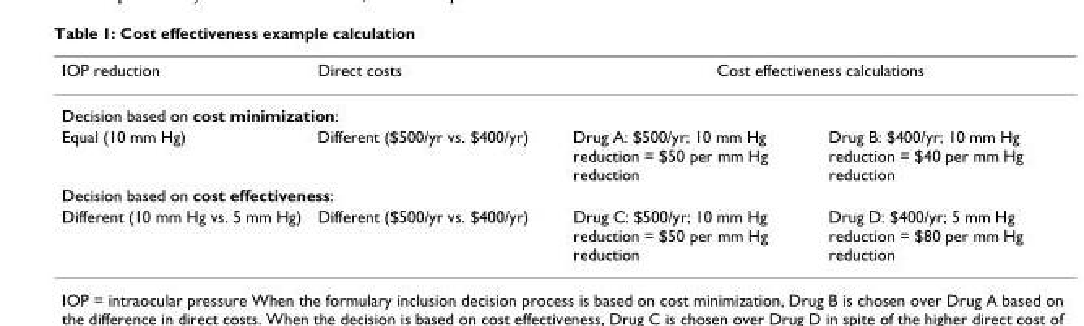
<table><thead><tr><td>IOP reduction</td><td>Direct costs</td><td colspan="2">Cost effectiveness calculations</td></tr><tr><td colspan="4">Decision based on cost minimization:</td></tr><tr><td>Equal (10 mm Hg)</td><td>Different ($500/yr vs. $400/yr)</td><td>Drug A: $500/yr; 10 mm Hg reduction = $50 per mm Hg reduction</td><td>Drug B: $400/yr; 10 mm Hg reduction = $40 per mm Hg reduction</td></tr></thead><tbody><tr><td colspan="4">Decision based on cost effectiveness:</td></tr><tr><td>Different (10 mm Hg vs. 5 mm Hg)</td><td>Different ($500/yr vs. $400/yr)</td><td>Drug C: $500/yr; 10 mm Hg reduction = $50 per mm Hg reduction</td><td>Drug D: $400/yr; 5 mm Hg reduction = $80 per mm Hg reduction</td></tr></tbody></table>